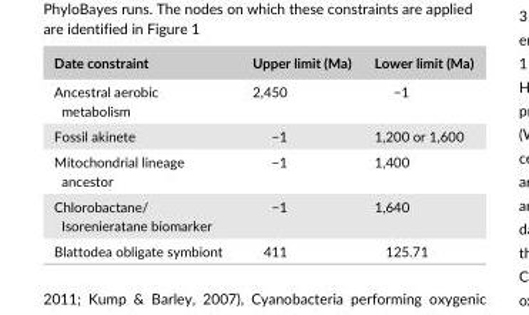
<table><thead><tr><td>Date constraint</td><td>Upper limit (Ma)</td><td>Lower limit (Ma)</td></tr></thead><tbody><tr><td>Ancestral aerobic metabolism</td><td>2,450</td><td>−1</td></tr><tr><td>Fossil akinete</td><td>−1</td><td>1,200 or 1,600</td></tr><tr><td>Mitochondrial lineage ancestor</td><td>−1</td><td>1,400</td></tr><tr><td>Chlorobactane/ Isorenieratane biomarker</td><td>−1</td><td>1,640</td></tr><tr><td>Blattodea obligate symbiont</td><td>411</td><td>125.71</td></tr></tbody></table>